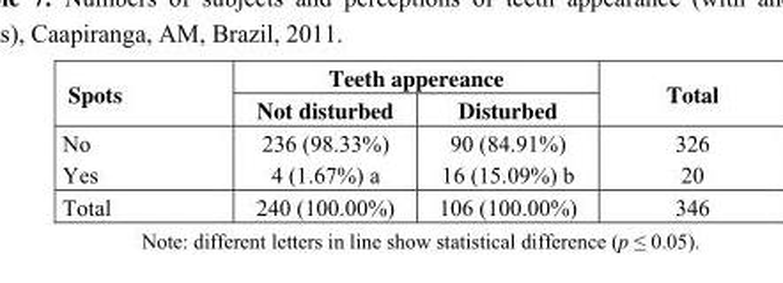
<table><thead><tr><td rowspan="2">Spots</td><td colspan="2">Teeth appereance</td><td rowspan="2">Total</td></tr><tr><td>Not disturbed</td><td>Disturbed</td></tr></thead><tbody><tr><td>No</td><td>236 (98.33%)</td><td>90 (84.91%)</td><td>326</td></tr><tr><td>Yes</td><td>4 (1.67%) a</td><td>16 (15.09%) b</td><td>20</td></tr><tr><td>Total</td><td>240 (100.00%)</td><td>106 (100.00%)</td><td>346</td></tr></tbody></table>